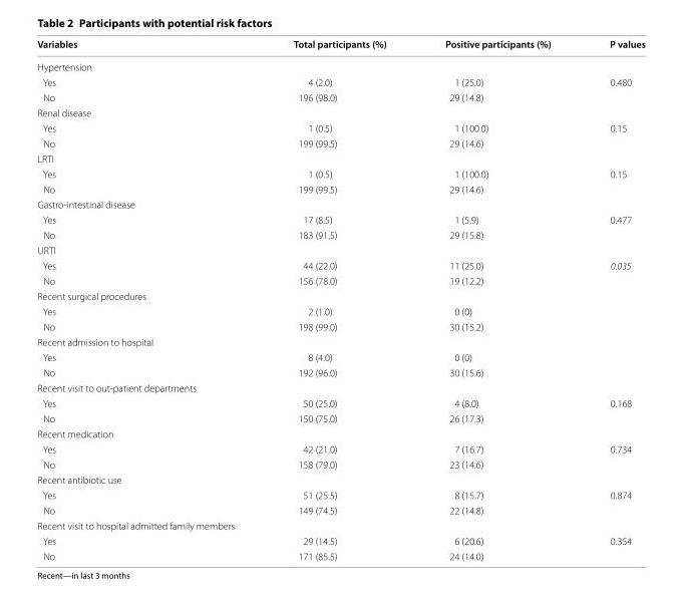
<table><thead><tr><td>Variables</td><td>Total participants (%)</td><td>Positive participants (%)</td><td>P values</td></tr></thead><tbody><tr><td colspan="4">Hypertension</td></tr><tr><td>Yes</td><td>4 (2.0)</td><td>1 (25.0)</td><td>0.480</td></tr><tr><td>No</td><td>196 (98.0)</td><td>29 (14.8)</td><td></td></tr><tr><td colspan="4">Renal disease</td></tr><tr><td>Yes</td><td>1 (0.5)</td><td>1 (100.0)</td><td>0.15</td></tr><tr><td>No</td><td>199 (99.5)</td><td>29 (14.6)</td><td></td></tr><tr><td colspan="4">LRTI</td></tr><tr><td>Yes</td><td>1 (0.5)</td><td>1 (100.0)</td><td>0.15</td></tr><tr><td>No</td><td>199 (99.5)</td><td>29 (14.6)</td><td></td></tr><tr><td colspan="4">Gastro-intestinal disease</td></tr><tr><td>Yes</td><td>17 (8.5)</td><td>1 (5.9)</td><td>0.477</td></tr><tr><td>No</td><td>183 (91.5)</td><td>29 (15.8)</td><td></td></tr><tr><td colspan="4">URTI</td></tr><tr><td>Yes</td><td>44 (22.0)</td><td>11 (25.0)</td><td>0.035</td></tr><tr><td>No</td><td>156 (78.0)</td><td>19 (12.2)</td><td></td></tr><tr><td colspan="4">Recent surgical procedures</td></tr><tr><td>Yes</td><td>2 (1.0)</td><td>0 (0)</td><td></td></tr><tr><td>No</td><td>198 (99.0)</td><td>30 (15.2)</td><td></td></tr><tr><td colspan="4">Recent admission to hospital</td></tr><tr><td>Yes</td><td>8 (4.0)</td><td>0 (0)</td><td></td></tr><tr><td>No</td><td>192 (96.0)</td><td>30 (15.6)</td><td></td></tr><tr><td colspan="4">Recent visit to out-patient departments</td></tr><tr><td>Yes</td><td>50 (25.0)</td><td>4 (8.0)</td><td>0.168</td></tr><tr><td>No</td><td>150 (75.0)</td><td>26 (17.3)</td><td></td></tr><tr><td colspan="4">Recent medication</td></tr><tr><td>Yes</td><td>42 (21.0)</td><td>7 (16.7)</td><td>0.734</td></tr><tr><td>No</td><td>158 (79.0)</td><td>23 (14.6)</td><td></td></tr><tr><td colspan="4">Recent antibiotic use</td></tr><tr><td>Yes</td><td>51 (25.5)</td><td>8 (15.7)</td><td>0.874</td></tr><tr><td>No</td><td>149 (74.5)</td><td>22 (14.8)</td><td></td></tr><tr><td colspan="4">Recent visit to hospital admitted family members</td></tr><tr><td>Yes</td><td>29 (14.5)</td><td>6 (20.6)</td><td>0.354</td></tr><tr><td>No</td><td>171 (85.5)</td><td>24 (14.0)</td><td></td></tr></tbody></table>